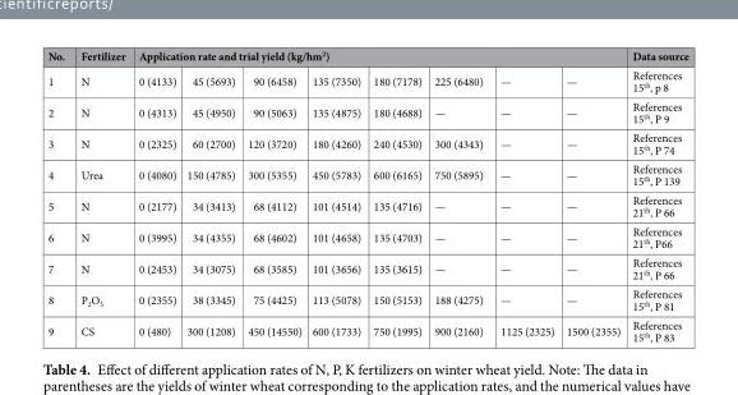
<table><thead><tr><td rowspan="2">No. 1</td><td rowspan="2">Fertilizer N</td><td colspan="8">Application rate and trial yield (kg/hm<sup>2</sup>)</td><td rowspan="2">Data source References 15<sup>th</sup>, p 8</td></tr><tr><td>0 (4133)</td><td>45 (5693)</td><td>90 (6458)</td><td>135 (7350)</td><td>180 (7178)</td><td>225 (6480)</td><td>—</td><td>—</td></tr></thead><tbody><tr><td>2</td><td>N</td><td>0 (4313)</td><td>45 (4950)</td><td>90 (5063)</td><td>135 (4875)</td><td>180 (4688)</td><td>—</td><td>—</td><td>—</td><td>References 15<sup>th</sup>, P 9</td></tr><tr><td>3</td><td>N</td><td>0 (2325)</td><td>60 (2700)</td><td>120 (3720)</td><td>180 (4260)</td><td>240 (4530)</td><td>300 (4343)</td><td>—</td><td>—</td><td>References 15<sup>th</sup>, P 74</td></tr><tr><td>4</td><td>Urea</td><td>0 (4080)</td><td>150 (4785)</td><td>300 (5355)</td><td>450 (5783)</td><td>600 (6165)</td><td>750 (5895)</td><td>—</td><td>—</td><td>References 15<sup>th</sup>, P 139</td></tr><tr><td>5</td><td>N</td><td>0 (2177)</td><td>34 (3413)</td><td>68 (4112)</td><td>101 (4514)</td><td>135 (4716)</td><td>—</td><td>—</td><td>—</td><td>References 21<sup>th</sup>, P 66</td></tr><tr><td>6</td><td>N</td><td>0 (3995)</td><td>34 (4355)</td><td>68 (4602)</td><td>101 (4658)</td><td>135 (4703)</td><td>—</td><td>—</td><td>—</td><td>References 21<sup>th</sup>, P66</td></tr><tr><td>7</td><td>N</td><td>0 (2453)</td><td>34 (3075)</td><td>68 (3585)</td><td>101 (3656)</td><td>135 (3615)</td><td>—</td><td>—</td><td>—</td><td>References 21<sup>th</sup>, P 66</td></tr><tr><td>8</td><td>P<sub>2</sub>O<sub>5</sub></td><td>0 (2355)</td><td>38 (3345)</td><td>75 (4425)</td><td>113 (5078)</td><td>150 (5153)</td><td>188 (4275)</td><td>—</td><td>—</td><td>References 15<sup>th</sup>, P 81</td></tr><tr><td>9</td><td>CS</td><td>0 (480)</td><td>300 (1208)</td><td>450 (14550)</td><td>600 (1733)</td><td>750 (1995)</td><td>900 (2160)</td><td>1125 (2325)</td><td>1500 (2355)</td><td>References 15<sup>th</sup>, P 83</td></tr></tbody></table>